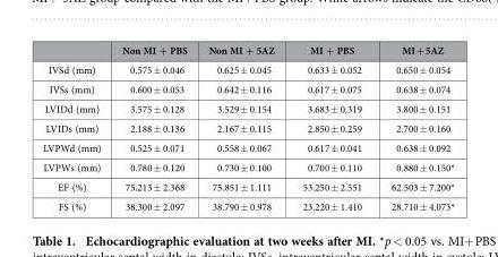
<table><thead><tr><td></td><td>Non MI + PBS</td><td>Non MI + 5AZ</td><td>MI + PBS</td><td>MI + 5AZ</td></tr></thead><tbody><tr><td>IVSd (mm)</td><td>0.575 ± 0.046</td><td>0.625 ± 0.045</td><td>0.633 ± 0.052</td><td>0.650 ± 0.054</td></tr><tr><td>IVSs (mm)</td><td>0.600 ± 0.053</td><td>0.642 ± 0.116</td><td>0.617 ± 0.075</td><td>0.638 ± 0.074</td></tr><tr><td>LVIDd (mm)</td><td>3.575 ± 0.128</td><td>3.529 ± 0.154</td><td>3.683 ± 0.319</td><td>3.800 ± 0.151</td></tr><tr><td>LVIDs (mm)</td><td>2.188 ± 0.136</td><td>2.167 ± 0.115</td><td>2.850 ± 0.259</td><td>2.700 ± 0.160</td></tr><tr><td>LVPWd (mm)</td><td>0.525 ± 0.071</td><td>0.558 ± 0.067</td><td>0.617 ± 0.041</td><td>0.638 ± 0.092</td></tr><tr><td>LVPWs (mm)</td><td>0.780 ± 0.120</td><td>0.730 ± 0.100</td><td>0.700 ± 0.110</td><td>0.880 ± 0.150*</td></tr><tr><td>EF (%)</td><td>75.213 ± 2.368</td><td>75.851 ± 1.111</td><td>53.250 ± 2.551</td><td>62.503 ± 7.200*</td></tr><tr><td>FS (%)</td><td>38.300 ± 2.097</td><td>38.790 ± 0.978</td><td>23.220 ± 1.410</td><td>28.710 ± 4.073*</td></tr></tbody></table>